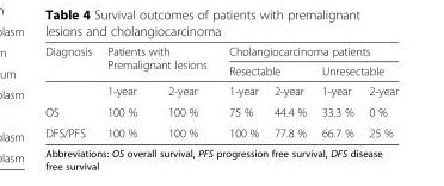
<table><thead><tr><td rowspan="3">Diagnosis</td><td rowspan="2" colspan="2">Patients with Premalignant lesions</td><td colspan="4">Cholangiocarcinoma patients</td></tr><tr><td colspan="2">Resectable</td><td colspan="2">Unresectable</td></tr><tr><td>1-year</td><td>2-year</td><td>1-year</td><td>2-year</td><td>1-year</td><td>2-year</td></tr></thead><tbody><tr><td>OS</td><td>100 %</td><td>100 %</td><td>75 %</td><td>44.4 %</td><td>33.3 %</td><td>0 %</td></tr><tr><td>DFS/PFS</td><td>100 %</td><td>100 %</td><td>100 %</td><td>77.8 %</td><td>66.7 %</td><td>25 %</td></tr></tbody></table>